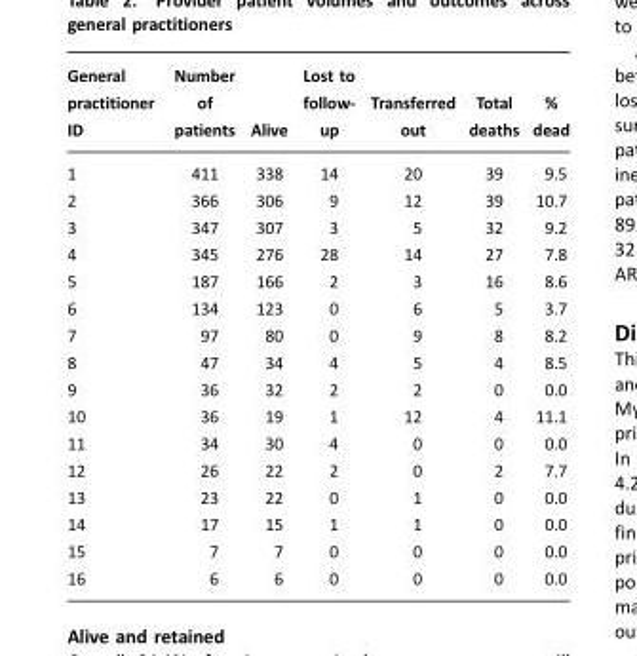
<table><thead><tr><td>General practitioner ID</td><td>Number of patients</td><td>Alive</td><td>Lost to follow- up</td><td>Transferred out</td><td>Total deaths</td><td>% dead</td></tr></thead><tbody><tr><td>1</td><td>411</td><td>338</td><td>14</td><td>20</td><td>39</td><td>9.5</td></tr><tr><td>2</td><td>366</td><td>306</td><td>9</td><td>12</td><td>39</td><td>10.7</td></tr><tr><td>3</td><td>347</td><td>307</td><td>3</td><td>5</td><td>32</td><td>9.2</td></tr><tr><td>4</td><td>345</td><td>276</td><td>28</td><td>14</td><td>27</td><td>7.8</td></tr><tr><td>5</td><td>187</td><td>166</td><td>2</td><td>3</td><td>16</td><td>8.6</td></tr><tr><td>6</td><td>134</td><td>123</td><td>0</td><td>6</td><td>5</td><td>3.7</td></tr><tr><td>7</td><td>97</td><td>80</td><td>0</td><td>9</td><td>8</td><td>8.2</td></tr><tr><td>8</td><td>47</td><td>34</td><td>4</td><td>5</td><td>4</td><td>8.5</td></tr><tr><td>9</td><td>36</td><td>32</td><td>2</td><td>2</td><td>0</td><td>0.0</td></tr><tr><td>10</td><td>36</td><td>19</td><td>1</td><td>12</td><td>4</td><td>11.1</td></tr><tr><td>11</td><td>34</td><td>30</td><td>4</td><td>0</td><td>0</td><td>0.0</td></tr><tr><td>12</td><td>26</td><td>22</td><td>2</td><td>0</td><td>2</td><td>7.7</td></tr><tr><td>13</td><td>23</td><td>22</td><td>0</td><td>1</td><td>0</td><td>0.0</td></tr><tr><td>14</td><td>17</td><td>15</td><td>1</td><td>1</td><td>0</td><td>0.0</td></tr><tr><td>15</td><td>7</td><td>7</td><td>0</td><td>0</td><td>0</td><td>0.0</td></tr><tr><td>16</td><td>6</td><td>6</td><td>0</td><td>0</td><td>0</td><td>0.0</td></tr></tbody></table>